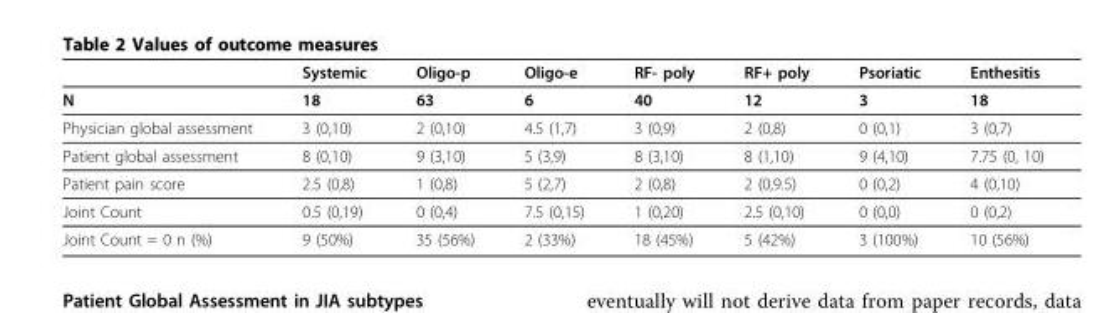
<table><thead><tr><td></td><td>Systemic</td><td>Oligo-p</td><td>Oligo-e</td><td>RF- poly</td><td>RF+ poly</td><td>Psoriatic</td><td>Enthesitis</td></tr></thead><tbody><tr><td>N</td><td>18</td><td>63</td><td>6</td><td>40</td><td>12</td><td>3</td><td>18</td></tr><tr><td>Physician global assessment</td><td>3 (0,10)</td><td>2 (0,10)</td><td>4.5 (1,7)</td><td>3 (0,9)</td><td>2 (0,8)</td><td>0 (0,1)</td><td>3 (0,7)</td></tr><tr><td>Patient global assessment</td><td>8 (0,10)</td><td>9 (3,10)</td><td>5 (3,9)</td><td>8 (3,10)</td><td>8 (1,10)</td><td>9 (4,10)</td><td>7.75 (0, 10)</td></tr><tr><td>Patient pain score</td><td>2.5 (0,8)</td><td>1 (0,8)</td><td>5 (2,7)</td><td>2 (0,8)</td><td>2 (0,9.5)</td><td>0 (0,2)</td><td>4 (0,10)</td></tr><tr><td>Joint Count</td><td>0.5 (0,19)</td><td>0 (0,4)</td><td>7.5 (0,15)</td><td>1 (0,20)</td><td>2.5 (0,10)</td><td>0 (0,0)</td><td>0 (0,2)</td></tr><tr><td>Joint Count = 0 n (%)</td><td>9 (50%)</td><td>35 (56%)</td><td>2 (33%)</td><td>18 (45%)</td><td>5 (42%)</td><td>3 (100%)</td><td>10 (56%)</td></tr></tbody></table>